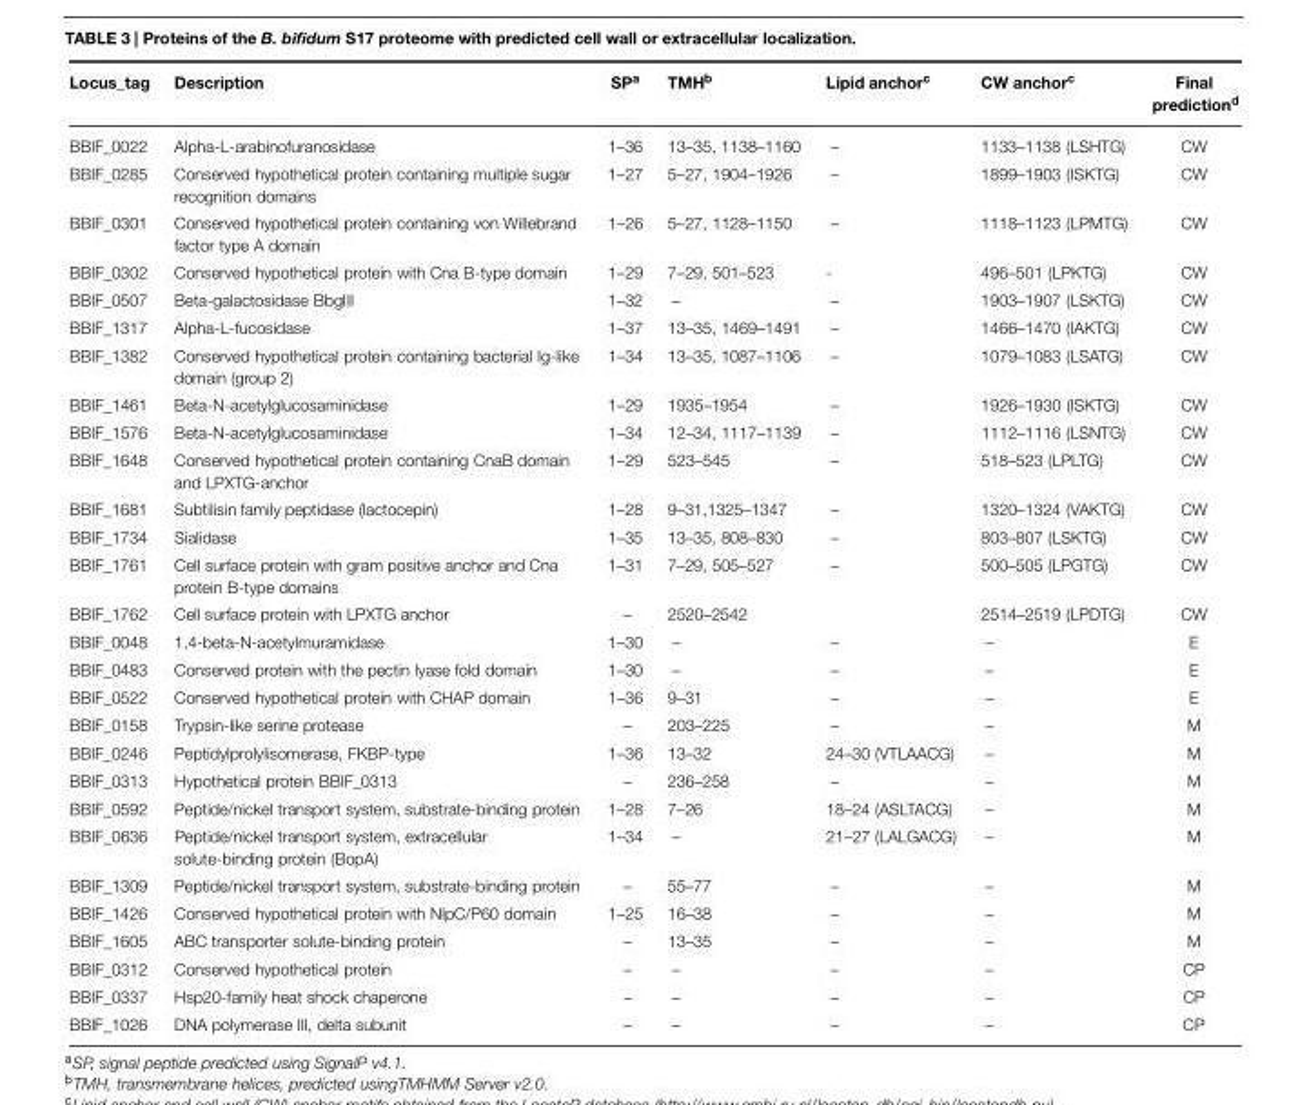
<table><thead><tr><td>Locus_tag</td><td>Description</td><td>SP<sup>a</sup></td><td>TMH<sup>b</sup></td><td>Lipid anchor<sup>c</sup></td><td>CW anchor<sup>c</sup></td><td>Final prediction<sup>d</sup></td></tr></thead><tbody><tr><td>BBIF_0022</td><td>Alpha-L-arabinofuranosidase</td><td>1–36</td><td>13–35, 1138–1160</td><td>–</td><td>1133–1138 (LSHTG)</td><td>CW</td></tr><tr><td>BBIF_0285</td><td>Conserved hypothetical protein containing multiple sugar recognition domains</td><td>1–27</td><td>5–27, 1904–1926</td><td>–</td><td>1899–1903 (ISKTG)</td><td>CW</td></tr><tr><td>BBIF_0301</td><td>Conserved hypothetical protein containing von Willebrand factor type A domain</td><td>1–26</td><td>5–27, 1128–1150</td><td>–</td><td>1118–1123 (LPMTG)</td><td>CW</td></tr><tr><td>BBIF_0302</td><td>Conserved hypothetical protein with Cna B-type domain</td><td>1–29</td><td>7–29, 501–523</td><td>-</td><td>496–501 (LPKTG)</td><td>CW</td></tr><tr><td>BBIF_0507</td><td>Beta-galactosidase BbgIII</td><td>1–32</td><td>–</td><td>–</td><td>1903–1907 (LSKTG)</td><td>CW</td></tr><tr><td>BBIF_1317</td><td>Alpha-L-fucosidase</td><td>1–37</td><td>13–35, 1469–1491</td><td>–</td><td>1466–1470 (IAKTG)</td><td>CW</td></tr><tr><td>BBIF_1382</td><td>Conserved hypothetical protein containing bacterial Ig-like domain (group 2)</td><td>1–34</td><td>13–35, 1087–1106</td><td>–</td><td>1079–1083 (LSATG)</td><td>CW</td></tr><tr><td>BBIF_1461</td><td>Beta-N-acetylglucosaminidase</td><td>1–29</td><td>1935–1954</td><td>–</td><td>1926–1930 (ISKTG)</td><td>CW</td></tr><tr><td>BBIF_1576</td><td>Beta-N-acetylglucosaminidase</td><td>1–34</td><td>12–34, 1117–1139</td><td>–</td><td>1112–1116 (LSNTG)</td><td>CW</td></tr><tr><td>BBIF_1648</td><td>Conserved hypothetical protein containing CnaB domain and LPXTG-anchor</td><td>1–29</td><td>523–545</td><td>–</td><td>518–523 (LPLTG)</td><td>CW</td></tr><tr><td>BBIF_1681</td><td>Subtilisin family peptidase (lactocepin)</td><td>1–28</td><td>9–31,1325–1347</td><td>–</td><td>1320–1324 (VAKTG)</td><td>CW</td></tr><tr><td>BBIF_1734</td><td>Sialidase</td><td>1–35</td><td>13–35, 808–830</td><td>–</td><td>803–807 (LSKTG)</td><td>CW</td></tr><tr><td>BBIF_1761</td><td>Cell surface protein with gram positive anchor and Cna protein B-type domains</td><td>1–31</td><td>7–29, 505–527</td><td>–</td><td>500–505 (LPGTG)</td><td>CW</td></tr><tr><td>BBIF_1762</td><td>Cell surface protein with LPXTG anchor</td><td>–</td><td>2520–2542</td><td></td><td>2514–2519 (LPDTG)</td><td>CW</td></tr><tr><td>BBIF_0048</td><td>1,4-beta-N-acetylmuramidase</td><td>1–30</td><td>–</td><td>–</td><td>–</td><td>E</td></tr><tr><td>BBIF_0483</td><td>Conserved protein with the pectin lyase fold domain</td><td>1–30</td><td>–</td><td>–</td><td>–</td><td>E</td></tr><tr><td>BBIF_0522</td><td>Conserved hypothetical protein with CHAP domain</td><td>1–36</td><td>9–31</td><td>–</td><td>–</td><td>E</td></tr><tr><td>BBIF_0158</td><td>Trypsin-like serine protease</td><td>–</td><td>203–225</td><td>–</td><td>–</td><td>M</td></tr><tr><td>BBIF_0246</td><td>Peptidylprolylisomerase, FKBP-type</td><td>1–36</td><td>13–32</td><td>24–30 (VTLAACG)</td><td>–</td><td>M</td></tr><tr><td>BBIF_0313</td><td>Hypothetical protein BBIF_0313</td><td>–</td><td>236–258</td><td>–</td><td>–</td><td>M</td></tr><tr><td>BBIF_0592</td><td>Peptide/nickel transport system, substrate-binding protein</td><td>1–28</td><td>7–26</td><td>18–24 (ASLTACG)</td><td>–</td><td>M</td></tr><tr><td>BBIF_0636</td><td>Peptide/nickel transport system, extracellular solute-binding protein (BopA)</td><td>1–34</td><td>–</td><td>21–27 (LALGACG)</td><td>–</td><td>M</td></tr><tr><td>BBIF_1309</td><td>Peptide/nickel transport system, substrate-binding protein</td><td>–</td><td>55–77</td><td>–</td><td>–</td><td>M</td></tr><tr><td>BBIF_1426</td><td>Conserved hypothetical protein with NlpC/P60 domain</td><td>1–25</td><td>16–38</td><td>–</td><td>–</td><td>M</td></tr><tr><td>BBIF_1605</td><td>ABC transporter solute-binding protein</td><td>–</td><td>13–35</td><td>–</td><td>–</td><td>M</td></tr><tr><td>BBIF_0312</td><td>Conserved hypothetical protein</td><td>–</td><td>–</td><td>–</td><td>–</td><td>CP</td></tr><tr><td>BBIF_0337</td><td>Hsp20-family heat shock chaperone</td><td>–</td><td>–</td><td>–</td><td>–</td><td>CP</td></tr><tr><td>BBIF_1026</td><td>DNA polymerase III, delta subunit</td><td>–</td><td>–</td><td>–</td><td>–</td><td>CP</td></tr></tbody></table>